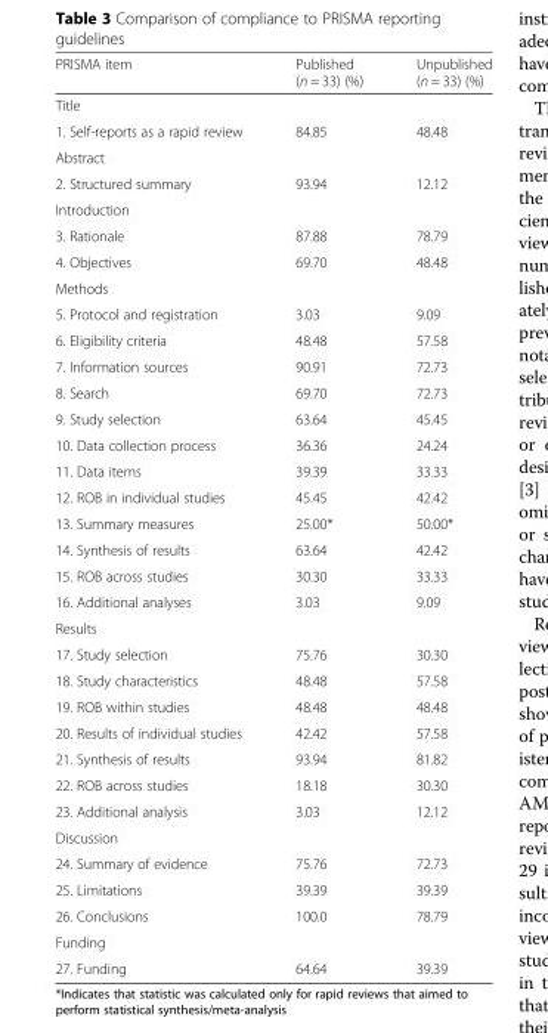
<table><thead><tr><td>PRISMA item</td><td>Published (n = 33) (%)</td><td>Unpublished (n = 33) (%)</td></tr></thead><tbody><tr><td colspan="3">Title</td></tr><tr><td>1. Self-reports as a rapid review</td><td>84.85</td><td>48.48</td></tr><tr><td colspan="3">Abstract</td></tr><tr><td>2. Structured summary</td><td>93.94</td><td>12.12</td></tr><tr><td colspan="3">Introduction</td></tr><tr><td>3. Rationale</td><td>87.88</td><td>78.79</td></tr><tr><td>4. Objectives</td><td>69.70</td><td>48.48</td></tr><tr><td colspan="3">Methods</td></tr><tr><td>5. Protocol and registration</td><td>3.03</td><td>9.09</td></tr><tr><td>6. Eligibility criteria</td><td>48.48</td><td>57.58</td></tr><tr><td>7. Information sources</td><td>90.91</td><td>72.73</td></tr><tr><td>8. Search</td><td>69.70</td><td>72.73</td></tr><tr><td>9. Study selection</td><td>63.64</td><td>45.45</td></tr><tr><td>10. Data collection process</td><td>36.36</td><td>24.24</td></tr><tr><td>11. Data items</td><td>39.39</td><td>33.33</td></tr><tr><td>12. ROB in individual studies</td><td>45.45</td><td>42.42</td></tr><tr><td>13. Summary measures</td><td>25.00*</td><td>50.00*</td></tr><tr><td>14. Synthesis of results</td><td>63.64</td><td>42.42</td></tr><tr><td>15. ROB across studies</td><td>30.30</td><td>33.33</td></tr><tr><td>16. Additional analyses</td><td>3.03</td><td>9.09</td></tr><tr><td colspan="3">Results</td></tr><tr><td>17. Study selection</td><td>75.76</td><td>30.30</td></tr><tr><td>18. Study characteristics</td><td>48.48</td><td>57.58</td></tr><tr><td>19. ROB within studies</td><td>48.48</td><td>48.48</td></tr><tr><td>20. Results of individual studies</td><td>42.42</td><td>57.58</td></tr><tr><td>21. Synthesis of results</td><td>93.94</td><td>81.82</td></tr><tr><td>22. ROB across studies</td><td>18.18</td><td>30.30</td></tr><tr><td>23. Additional analysis</td><td>3.03</td><td>12.12</td></tr><tr><td colspan="3">Discussion</td></tr><tr><td>24. Summary of evidence</td><td>75.76</td><td>72.73</td></tr><tr><td>25. Limitations</td><td>39.39</td><td>39.39</td></tr><tr><td>26. Conclusions</td><td>100.0</td><td>78.79</td></tr><tr><td colspan="3">Funding</td></tr><tr><td>27. Funding</td><td>64.64</td><td>39.39</td></tr></tbody></table>